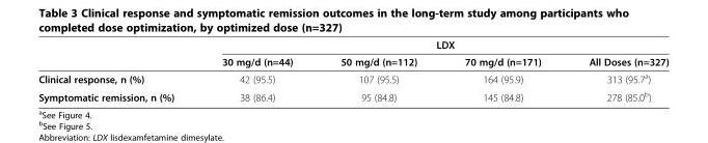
<table><thead><tr><td rowspan="2"></td><td colspan="4">LDX</td></tr><tr><td>30 mg/d (n=44)</td><td>50 mg/d (n=112)</td><td>70 mg/d (n=171)</td><td>All Doses (n=327)</td></tr></thead><tbody><tr><td>Clinical response, n (%)</td><td>42 (95.5)</td><td>107 (95.5)</td><td>164 (95.9)</td><td>313 (95.7<sup>a</sup>)</td></tr><tr><td>Symptomatic remission, n (%)</td><td>38 (86.4)</td><td>95 (84.8)</td><td>145 (84.8)</td><td>278 (85.0<sup>b</sup>)</td></tr></tbody></table>